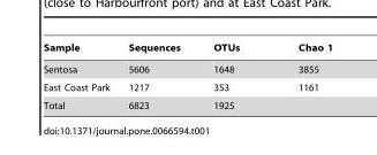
<table><thead><tr><td>Sample</td><td>Sequences</td><td>OTUs</td><td>Chao 1</td></tr></thead><tbody><tr><td>Sentosa</td><td>5606</td><td>1648</td><td>3855</td></tr><tr><td>East Coast Park</td><td>1217</td><td>353</td><td>1161</td></tr><tr><td>Total</td><td>6823</td><td>1925</td><td></td></tr></tbody></table>